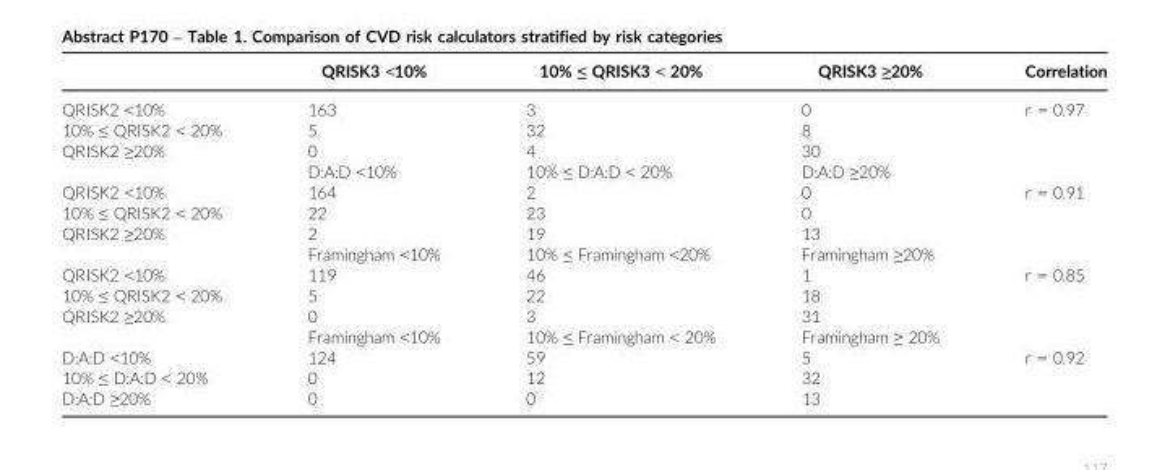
<table><thead><tr><td></td><td>QRISK3 &lt;10%</td><td>10% ≤ QRISK3 &lt; 20%</td><td>QRISK3 ≥20%</td><td>Correlation</td></tr></thead><tbody><tr><td>QRISK2 &lt;10%</td><td>163</td><td>3</td><td>0</td><td>r = 0.97</td></tr><tr><td>10% ≤ QRISK2 &lt; 20%</td><td>5</td><td>32</td><td>8</td><td></td></tr><tr><td rowspan="2">QRISK2 ≥20%</td><td>0</td><td>4</td><td>30</td><td></td></tr><tr><td>D:A:D &lt;10%</td><td>10% ≤ D:A:D &lt; 20%</td><td>D:A:D ≥20%</td><td></td></tr><tr><td>QRISK2 &lt;10%</td><td>164</td><td>2</td><td>0</td><td>r = 0.91</td></tr><tr><td>10% ≤ QRISK2 &lt; 20%</td><td>22</td><td>23</td><td>0</td><td></td></tr><tr><td rowspan="2">QRISK2 ≥20%</td><td>2</td><td>19</td><td>13</td><td></td></tr><tr><td>Framingham &lt;10%</td><td>10% ≤ Framingham &lt;20%</td><td>Framingham ≥20%</td><td></td></tr><tr><td>QRISK2 &lt;10%</td><td>119</td><td>46</td><td>1</td><td>r = 0.85</td></tr><tr><td>10% ≤ QRISK2 &lt; 20%</td><td>5</td><td>22</td><td>18</td><td></td></tr><tr><td rowspan="2">QRISK2 ≥20%</td><td>0</td><td>3</td><td>31</td><td></td></tr><tr><td>Framingham &lt;10%</td><td>10% ≤ Framingham &lt; 20%</td><td>Framingham ≥ 20%</td><td></td></tr><tr><td>D:A:D &lt;10%</td><td>124</td><td>59</td><td>5</td><td>r = 0.92</td></tr><tr><td>10% ≤ D:A:D &lt; 20%</td><td>0</td><td>12</td><td>32</td><td></td></tr><tr><td>D:A:D ≥20%</td><td>0</td><td>0</td><td>13</td><td></td></tr></tbody></table>